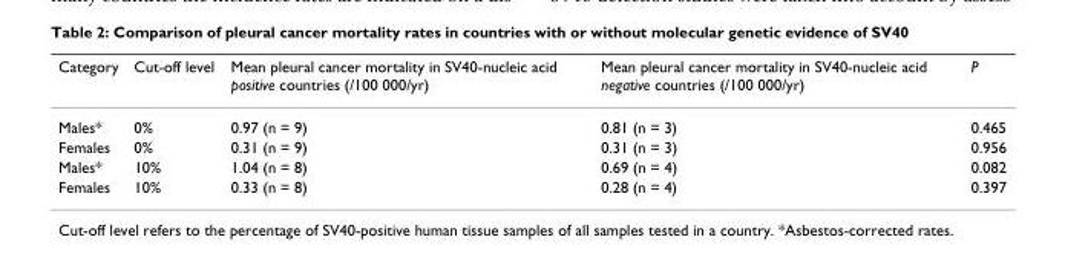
<table><thead><tr><td>Category</td><td>Cut-off level</td><td>Mean pleural cancer mortality in SV40-nucleic acid positive countries (/100 000/yr)</td><td>Mean pleural cancer mortality in SV40-nucleic acid negative countries (/100 000/yr)</td><td>P</td></tr></thead><tbody><tr><td>Males*</td><td>0%</td><td>0.97 (n = 9)</td><td>0.81 (n = 3)</td><td>0.465</td></tr><tr><td>Females</td><td>0%</td><td>0.31 (n = 9)</td><td>0.31 (n = 3)</td><td>0.956</td></tr><tr><td>Males*</td><td>10%</td><td>1.04 (n = 8)</td><td>0.69 (n = 4)</td><td>0.082</td></tr><tr><td>Females</td><td>10%</td><td>0.33 (n = 8)</td><td>0.28 (n = 4)</td><td>0.397</td></tr></tbody></table>